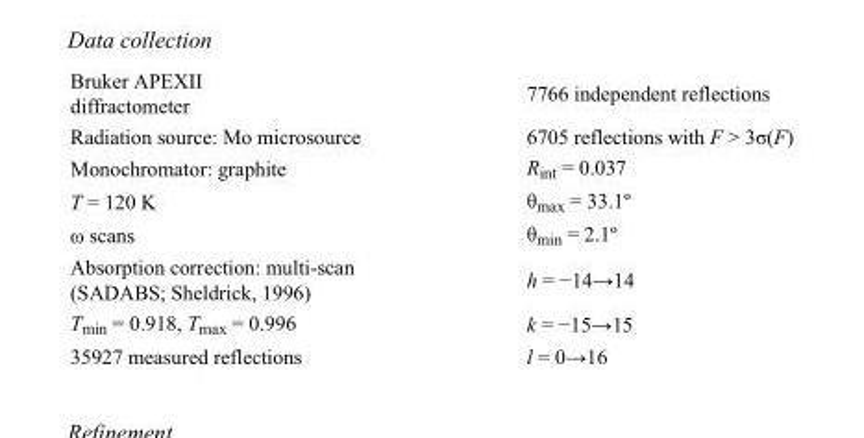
<table><tbody><tr><td>Bruker APEXII diffractometer</td><td>7766 independent reflections</td></tr><tr><td>Radiation source: Mo microsource</td><td>6705 reflections with F &gt; 3σ(F)</td></tr><tr><td>Monochromator: graphite</td><td>R<sub>int</sub> = 0.037</td></tr><tr><td>T = 120 K</td><td>θ<sub>max</sub> = 33.1º</td></tr><tr><td>ω scans</td><td>θ<sub>min</sub> = 2.1º</td></tr><tr><td>Absorption correction: multi-scan (SADABS; Sheldrick, 1996)</td><td>h = −14→14</td></tr><tr><td>T<sub>min</sub> = 0.918, T<sub>max</sub> = 0.996</td><td>k = −15→15</td></tr><tr><td>35927 measured reflections</td><td>l = 0→16</td></tr></tbody></table>